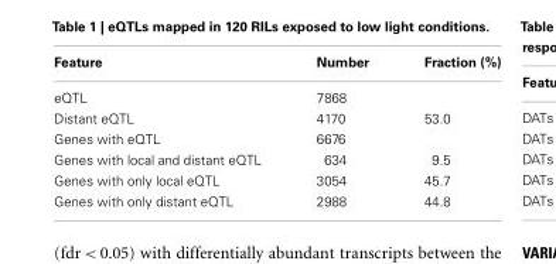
<table><thead><tr><td>Feature</td><td>Number</td><td>Fraction (%)</td></tr></thead><tbody><tr><td>eQTL</td><td>7868</td><td></td></tr><tr><td>Distant eQTL</td><td>4170</td><td>53.0</td></tr><tr><td>Genes with eQTL</td><td>6676</td><td></td></tr><tr><td>Genes with local and distant eQTL</td><td>634</td><td>9.5</td></tr><tr><td>Genes with only local eQTL</td><td>3054</td><td>45.7</td></tr><tr><td>Genes with only distant eQTL</td><td>2988</td><td>44.8</td></tr></tbody></table>